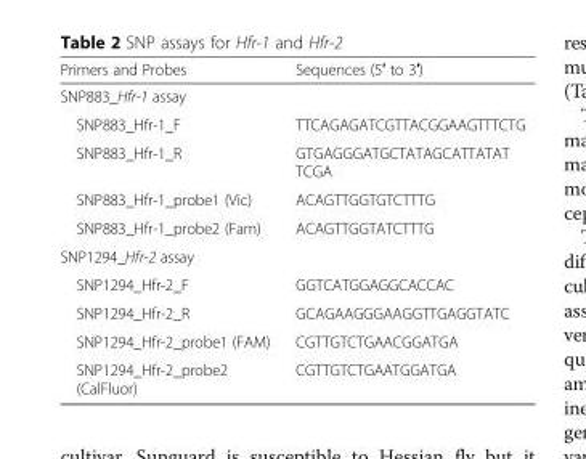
<table><thead><tr><td>Primers and Probes</td><td>Sequences (5′ to 3′)</td></tr></thead><tbody><tr><td colspan="2">SNP883_Hfr-1 assay</td></tr><tr><td>SNP883_Hfr-1_F</td><td>TTCAGAGATCGTTACGGAAGTTTCTG</td></tr><tr><td>SNP883_Hfr-1_R</td><td>GTGAGGGATGCTATAGCATTATAT TCGA</td></tr><tr><td>SNP883_Hfr-1_probe1 (Vic)</td><td>ACAGTTGGTGTCTTTG</td></tr><tr><td>SNP883_Hfr-1_probe2 (Fam)</td><td>ACAGTTGGTATCTTTG</td></tr><tr><td colspan="2">SNP1294_Hfr-2 assay</td></tr><tr><td>SNP1294_Hfr-2_F</td><td>GGTCATGGAGGCACCAC</td></tr><tr><td>SNP1294_Hfr-2_R</td><td>GCAGAAGGGAAGGTTGAGGTATC</td></tr><tr><td>SNP1294_Hfr-2_probe1 (FAM)</td><td>CGTTGTCTGAACGGATGA</td></tr><tr><td>SNP1294_Hfr-2_probe2 (CalFluor)</td><td>CGTTGTCTGAATGGATGA</td></tr></tbody></table>